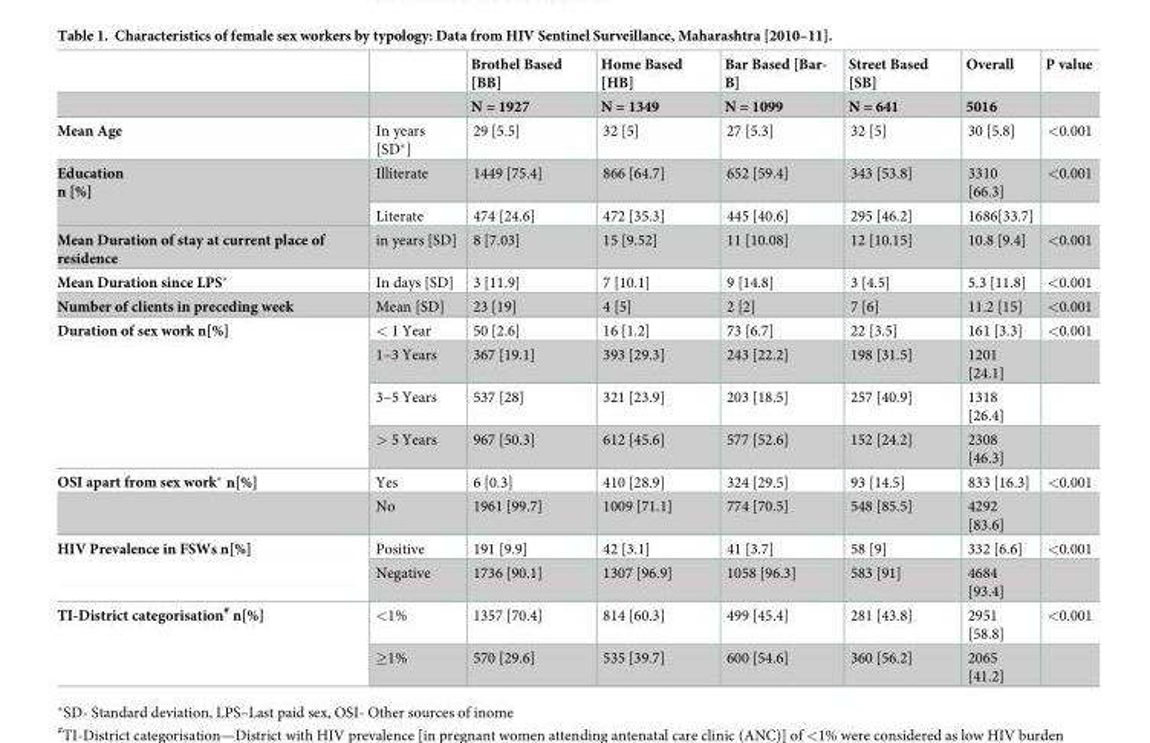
<table><thead><tr><td rowspan="2"></td><td rowspan="2"></td><td rowspan="2">Brothel Based [BB] N = 1927</td><td rowspan="2">Home Based [HB] N = 1349</td><td rowspan="2">Bar Based [Bar- B] N = 1099</td><td rowspan="2">Street Based [SB] N = 641</td><td rowspan="2">Overall 5016</td><td rowspan="2">P value</td></tr><tr></tr></thead><tbody><tr><td>Mean Age</td><td>In years [SD*]</td><td>29 [5.5]</td><td>32 [5]</td><td>27 [5.3]</td><td>32 [5]</td><td>30 [5.8]</td><td>&lt;0.001</td></tr><tr><td rowspan="2">Education n [%]</td><td>Illiterate</td><td>1449 [75.4]</td><td>866 [64.7]</td><td>652 [59.4]</td><td>343 [53.8]</td><td>3310 [66.3]</td><td>&lt;0.001</td></tr><tr><td>Literate</td><td>474 [24.6]</td><td>472 [35.3]</td><td>445 [40.6]</td><td>295 [46.2]</td><td>1686[33.7]</td><td></td></tr><tr><td>Mean Duration of stay at current place of residence</td><td>in years [SD]</td><td>8 [7.03]</td><td>15 [9.52]</td><td>11 [10.08]</td><td>12 [10.15]</td><td>10.8 [9.4]</td><td>&lt;0.001</td></tr><tr><td>Mean Duration since LPS*</td><td>In days [SD]</td><td>3 [11.9]</td><td>7 [10.1]</td><td>9 [14.8]</td><td>3 [4.5]</td><td>5.3 [11.8]</td><td>&lt;0.001</td></tr><tr><td>Number of clients in preceding week</td><td>Mean [SD]</td><td>23 [19]</td><td>4 [5]</td><td>2 [2]</td><td>7 [6]</td><td>11.2 [15]</td><td>&lt;0.001</td></tr><tr><td rowspan="4">Duration of sex work n[%]</td><td>&lt; 1 Year</td><td>50 [2.6]</td><td>16 [1.2]</td><td>73 [6.7]</td><td>22 [3.5]</td><td>161 [3.3]</td><td>&lt;0.001</td></tr><tr><td>1–3 Years</td><td>367 [19.1]</td><td>393 [29.3]</td><td>243 [22.2]</td><td>198 [31.5]</td><td>1201 [24.1]</td><td></td></tr><tr><td>3–5 Years</td><td>537 [28]</td><td>321 [23.9]</td><td>203 [18.5]</td><td>257 [40.9]</td><td>1318 [26.4]</td><td></td></tr><tr><td>&gt; 5 Years</td><td>967 [50.3]</td><td>612 [45.6]</td><td>577 [52.6]</td><td>152 [24.2]</td><td>2308 [46.3]</td><td></td></tr><tr><td rowspan="2">OSI apart from sex work* n[%]</td><td>Yes</td><td>6 [0.3]</td><td>410 [28.9]</td><td>324 [29.5]</td><td>93 [14.5]</td><td>833 [16.3]</td><td>&lt;0.001</td></tr><tr><td>No</td><td>1961 [99.7]</td><td>1009 [71.1]</td><td>774 [70.5]</td><td>548 [85.5]</td><td>4292 [83.6]</td><td></td></tr><tr><td rowspan="2">HIV Prevalence in FSWs n[%]</td><td>Positive</td><td>191 [9.9]</td><td>42 [3.1]</td><td>41 [3.7]</td><td>58 [9]</td><td>332 [6.6]</td><td>&lt;0.001</td></tr><tr><td>Negative</td><td>1736 [90.1]</td><td>1307 [96.9]</td><td>1058 [96.3]</td><td>583 [91]</td><td>4684 [93.4]</td><td></td></tr><tr><td rowspan="2">TI-District categorisation<sup>#</sup> n[%]</td><td>&lt;1%</td><td>1357 [70.4]</td><td>814 [60.3]</td><td>499 [45.4]</td><td>281 [43.8]</td><td>2951 [58.8]</td><td>&lt;0.001</td></tr><tr><td>≥1%</td><td>570 [29.6]</td><td>535 [39.7]</td><td>600 [54.6]</td><td>360 [56.2]</td><td>2065 [41.2]</td><td></td></tr></tbody></table>